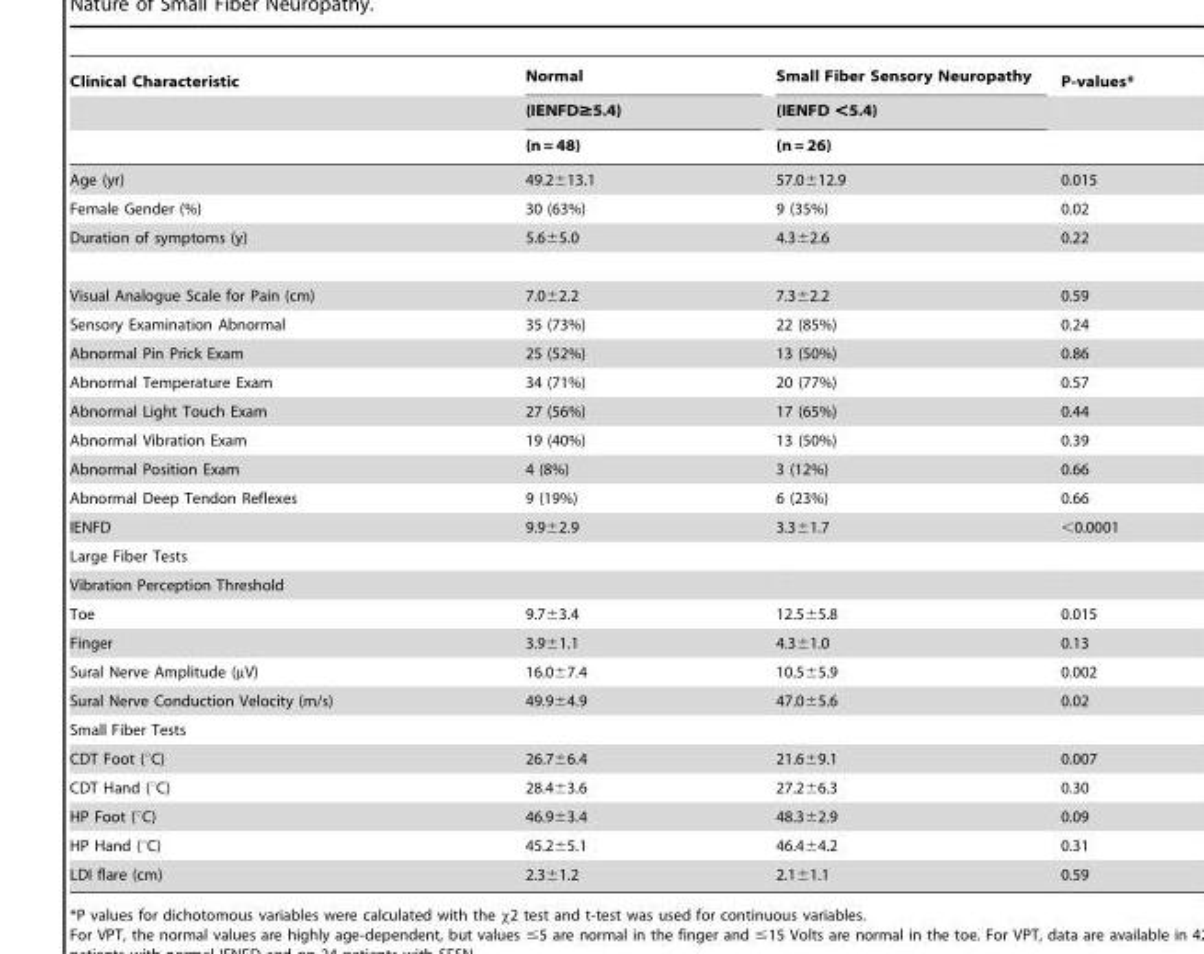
<table><thead><tr><td rowspan="3">Clinical Characteristic</td><td rowspan="3">Normal (IENFD≥5.4) (n = 48)</td><td rowspan="3">Small Fiber Sensory Neuropathy (IENFD &lt;5.4) (n = 26)</td><td rowspan="3">P-values*</td></tr><tr></tr><tr></tr></thead><tbody><tr><td>Age (yr)</td><td>49.2±13.1</td><td>57.0±12.9</td><td>0.015</td></tr><tr><td>Female Gender (%)</td><td>30 (63%)</td><td>9 (35%)</td><td>0.02</td></tr><tr><td>Duration of symptoms (y)</td><td>5.6±5.0</td><td>4.3±2.6</td><td>0.22</td></tr><tr><td>Visual Analogue Scale for Pain (cm)</td><td>7.0±2.2</td><td>7.3±2.2</td><td>0.59</td></tr><tr><td>Sensory Examination Abnormal</td><td>35 (73%)</td><td>22 (85%)</td><td>0.24</td></tr><tr><td>Abnormal Pin Prick Exam</td><td>25 (52%)</td><td>13 (50%)</td><td>0.86</td></tr><tr><td>Abnormal Temperature Exam</td><td>34 (71%)</td><td>20 (77%)</td><td>0.57</td></tr><tr><td>Abnormal Light Touch Exam</td><td>27 (56%)</td><td>17 (65%)</td><td>0.44</td></tr><tr><td>Abnormal Vibration Exam</td><td>19 (40%)</td><td>13 (50%)</td><td>0.39</td></tr><tr><td>Abnormal Position Exam</td><td>4 (8%)</td><td>3 (12%)</td><td>0.66</td></tr><tr><td>Abnormal Deep Tendon Reflexes</td><td>9 (19%)</td><td>6 (23%)</td><td>0.66</td></tr><tr><td>IENFD</td><td>9.9±2.9</td><td>3.3±1.7</td><td>&lt;0.0001</td></tr><tr><td colspan="4">Large Fiber Tests</td></tr><tr><td colspan="4">Vibration Perception Threshold</td></tr><tr><td>Toe</td><td>9.7±3.4</td><td>12.5±5.8</td><td>0.015</td></tr><tr><td>Finger</td><td>3.9±1.1</td><td>4.3±1.0</td><td>0.13</td></tr><tr><td>Sural Nerve Amplitude (µV)</td><td>16.0±7.4</td><td>10.5±5.9</td><td>0.002</td></tr><tr><td>Sural Nerve Conduction Velocity (m/s)</td><td>49.9±4.9</td><td>47.0±5.6</td><td>0.02</td></tr><tr><td colspan="4">Small Fiber Tests</td></tr><tr><td>CDT Foot (°C)</td><td>26.7±6.4</td><td>21.6±9.1</td><td>0.007</td></tr><tr><td>CDT Hand (°C)</td><td>28.4±3.6</td><td>27.2±6.3</td><td>0.30</td></tr><tr><td>HP Foot (°C)</td><td>46.9±3.4</td><td>48.3±2.9</td><td>0.09</td></tr><tr><td>HP Hand (°C)</td><td>45.2±5.1</td><td>46.4±4.2</td><td>0.31</td></tr><tr><td>LDI flare (cm)</td><td>2.3±1.2</td><td>2.1±1.1</td><td>0.59</td></tr></tbody></table>